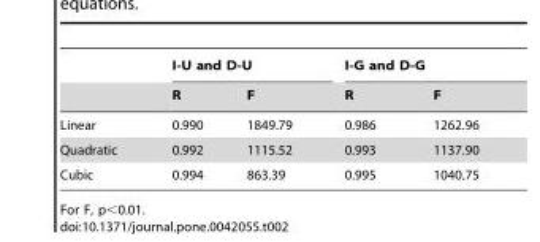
<table><thead><tr><td rowspan="2"></td><td colspan="2">I-U and D-U</td><td colspan="2">I-G and D-G</td></tr><tr><td>R</td><td>F</td><td>R</td><td>F</td></tr></thead><tbody><tr><td>Linear</td><td>0.990</td><td>1849.79</td><td>0.986</td><td>1262.96</td></tr><tr><td>Quadratic</td><td>0.992</td><td>1115.52</td><td>0.993</td><td>1137.90</td></tr><tr><td>Cubic</td><td>0.994</td><td>863.39</td><td>0.995</td><td>1040.75</td></tr></tbody></table>